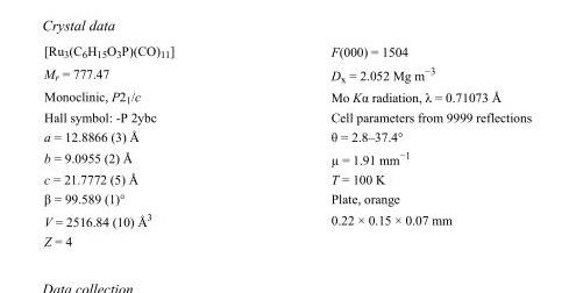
<table><tbody><tr><td>[Ru<sub>3</sub>(C<sub>6</sub>H<sub>15</sub>O<sub>3</sub>P)(CO)<sub>11</sub>]</td><td>F(000) = 1504</td></tr><tr><td>M<sub>r</sub> = 777.47</td><td>D<sub>x</sub> = 2.052 Mg m<sup>−3</sup></td></tr><tr><td>Monoclinic, P2<sub>1</sub>/c</td><td>Mo Kα radiation, λ = 0.71073 Å</td></tr><tr><td>Hall symbol: -P 2ybc</td><td>Cell parameters from 9999 reflections</td></tr><tr><td>a = 12.8866 (3) Å</td><td>θ = 2.8–37.4°</td></tr><tr><td>b = 9.0955 (2) Å</td><td>µ = 1.91 mm<sup>−1</sup></td></tr><tr><td>c = 21.7772 (5) Å</td><td>T = 100 K</td></tr><tr><td>β = 99.589 (1)°</td><td>Plate, orange</td></tr><tr><td>V = 2516.84 (10) Å<sup>3</sup></td><td>0.22 × 0.15 × 0.07 mm</td></tr><tr><td>Z = 4</td><td></td></tr></tbody></table>